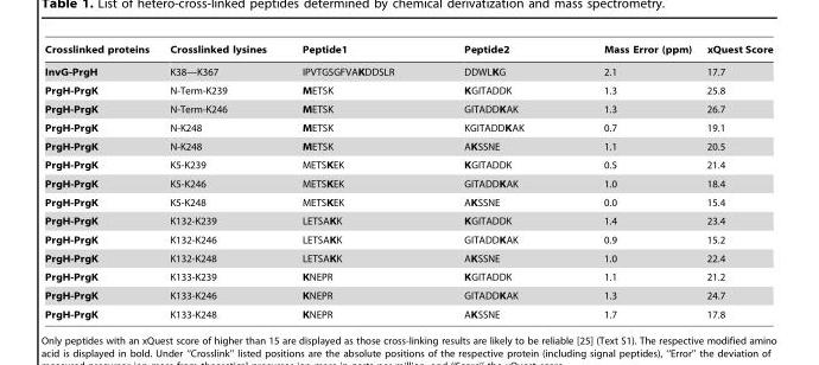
<table><thead><tr><td>Crosslinked proteins</td><td>Crosslinked lysines</td><td>Peptide1</td><td>Peptide2</td><td>Mass Error (ppm)</td><td>xQuest Score</td></tr></thead><tbody><tr><td>InvG-PrgH</td><td>K38—K367</td><td>IPVTGSGFVAKDDSLR</td><td>DDWLKG</td><td>2.1</td><td>17.7</td></tr><tr><td>PrgH-PrgK</td><td>N-Term-K239</td><td>METSK</td><td>KGITADDK</td><td>1.3</td><td>25.8</td></tr><tr><td>PrgH-PrgK</td><td>N-Term-K246</td><td>METSK</td><td>GITADDKAK</td><td>1.3</td><td>26.7</td></tr><tr><td>PrgH-PrgK</td><td>N-K248</td><td>METSK</td><td>KGITADDKAK</td><td>0.7</td><td>19.1</td></tr><tr><td>PrgH-PrgK</td><td>N-K248</td><td>METSK</td><td>AKSSNE</td><td>1.1</td><td>20.5</td></tr><tr><td>PrgH-PrgK</td><td>K5-K239</td><td>METSKEK</td><td>KGITADDK</td><td>0.5</td><td>21.4</td></tr><tr><td>PrgH-PrgK</td><td>K5-K246</td><td>METSKEK</td><td>GITADDKAK</td><td>1.0</td><td>18.4</td></tr><tr><td>PrgH-PrgK</td><td>K5-K248</td><td>METSKEK</td><td>AKSSNE</td><td>0.0</td><td>15.4</td></tr><tr><td>PrgH-PrgK</td><td>K132-K239</td><td>LETSAKK</td><td>KGITADDK</td><td>1.4</td><td>23.4</td></tr><tr><td>PrgH-PrgK</td><td>K132-K246</td><td>LETSAKK</td><td>GITADDKAK</td><td>0.9</td><td>15.2</td></tr><tr><td>PrgH-PrgK</td><td>K132-K248</td><td>LETSAKK</td><td>AKSSNE</td><td>1.0</td><td>22.4</td></tr><tr><td>PrgH-PrgK</td><td>K133-K239</td><td>KNEPR</td><td>KGITADDK</td><td>1.1</td><td>21.2</td></tr><tr><td>PrgH-PrgK</td><td>K133-K246</td><td>KNEPR</td><td>GITADDKAK</td><td>1.3</td><td>24.7</td></tr><tr><td>PrgH-PrgK</td><td>K133-K248</td><td>KNEPR</td><td>AKSSNE</td><td>1.7</td><td>17.8</td></tr></tbody></table>